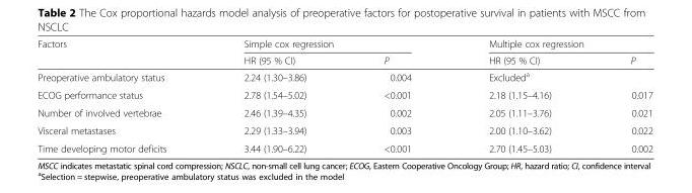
<table><thead><tr><td rowspan="2">Factors</td><td colspan="2">Simple cox regression</td><td colspan="2">Multiple cox regression</td></tr><tr><td>HR (95 % CI)</td><td>P</td><td>HR (95 % CI)</td><td>P</td></tr></thead><tbody><tr><td>Preoperative ambulatory status</td><td>2.24 (1.30–3.86)</td><td>0.004</td><td colspan="2">Excluded<sup>a</sup></td></tr><tr><td>ECOG performance status</td><td>2.78 (1.54–5.02)</td><td>&lt;0.001</td><td>2.18 (1.15–4.16)</td><td>0.017</td></tr><tr><td>Number of involved vertebrae</td><td>2.46 (1.39–4.35)</td><td>0.002</td><td>2.05 (1.11–3.76)</td><td>0.021</td></tr><tr><td>Visceral metastases</td><td>2.29 (1.33–3.94)</td><td>0.003</td><td>2.00 (1.10–3.62)</td><td>0.022</td></tr><tr><td>Time developing motor deficits</td><td>3.44 (1.90–6.22)</td><td>&lt;0.001</td><td>2.70 (1.45–5.03)</td><td>0.002</td></tr></tbody></table>